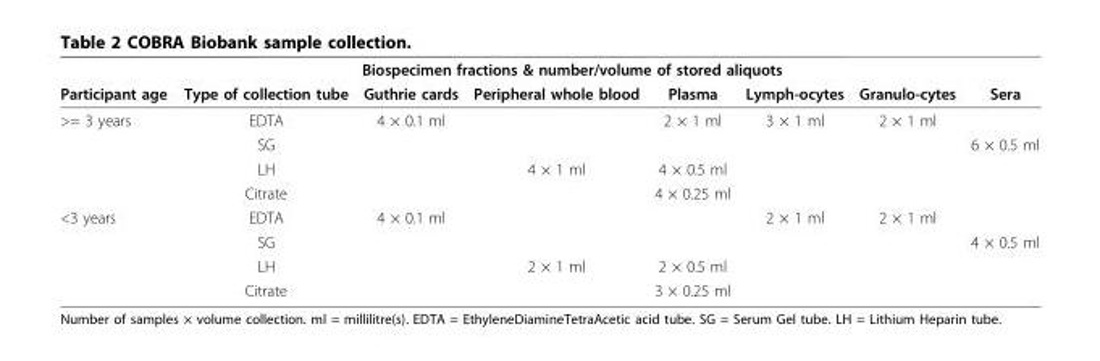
<table><thead><tr><td rowspan="2">Participant age</td><td rowspan="2">Type of collection tube</td><td colspan="6">Biospecimen fractions &amp; number/volume of stored aliquots</td></tr><tr><td>Guthrie cards</td><td>Peripheral whole blood</td><td>Plasma</td><td>Lymph-ocytes</td><td>Granulo-cytes</td><td>Sera</td></tr></thead><tbody><tr><td rowspan="4">&gt;= 3 years</td><td>EDTA</td><td>4 × 0.1 ml</td><td></td><td>2 × 1 ml</td><td>3 × 1 ml</td><td>2 × 1 ml</td><td></td></tr><tr><td>SG</td><td></td><td></td><td></td><td></td><td></td><td>6 × 0.5 ml</td></tr><tr><td>LH</td><td></td><td>4 × 1 ml</td><td>4 × 0.5 ml</td><td></td><td></td><td></td></tr><tr><td>Citrate</td><td></td><td></td><td>4 × 0.25 ml</td><td></td><td></td><td></td></tr><tr><td rowspan="4">&lt;3 years</td><td>EDTA</td><td>4 × 0.1 ml</td><td></td><td></td><td>2 × 1 ml</td><td>2 × 1 ml</td><td></td></tr><tr><td>SG</td><td></td><td></td><td></td><td></td><td></td><td>4 × 0.5 ml</td></tr><tr><td>LH</td><td></td><td>2 × 1 ml</td><td>2 × 0.5 ml</td><td></td><td></td><td></td></tr><tr><td>Citrate</td><td></td><td></td><td>3 × 0.25 ml</td><td></td><td></td><td></td></tr></tbody></table>